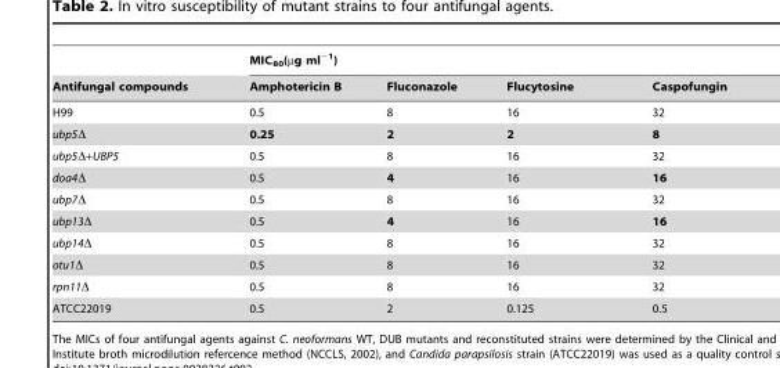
<table><thead><tr><td rowspan="2">Antifungal compounds</td><td colspan="4">MIC<sub>80</sub>(µg ml<sup>−1</sup>)</td></tr><tr><td>Amphotericin B</td><td>Fluconazole</td><td>Flucytosine</td><td>Caspofungin</td></tr></thead><tbody><tr><td>H99</td><td>0.5</td><td>8</td><td>16</td><td>32</td></tr><tr><td>ubp5Δ</td><td>0.25</td><td>2</td><td>2</td><td>8</td></tr><tr><td>ubp5Δ+UBP5</td><td>0.5</td><td>8</td><td>16</td><td>32</td></tr><tr><td>doa4Δ</td><td>0.5</td><td>4</td><td>16</td><td>16</td></tr><tr><td>ubp7Δ</td><td>0.5</td><td>8</td><td>16</td><td>32</td></tr><tr><td>ubp13Δ</td><td>0.5</td><td>4</td><td>16</td><td>16</td></tr><tr><td>ubp14Δ</td><td>0.5</td><td>8</td><td>16</td><td>32</td></tr><tr><td>otu1Δ</td><td>0.5</td><td>8</td><td>16</td><td>32</td></tr><tr><td>rpn11Δ</td><td>0.5</td><td>8</td><td>16</td><td>32</td></tr><tr><td>ATCC22019</td><td>0.5</td><td>2</td><td>0.125</td><td>0.5</td></tr></tbody></table>